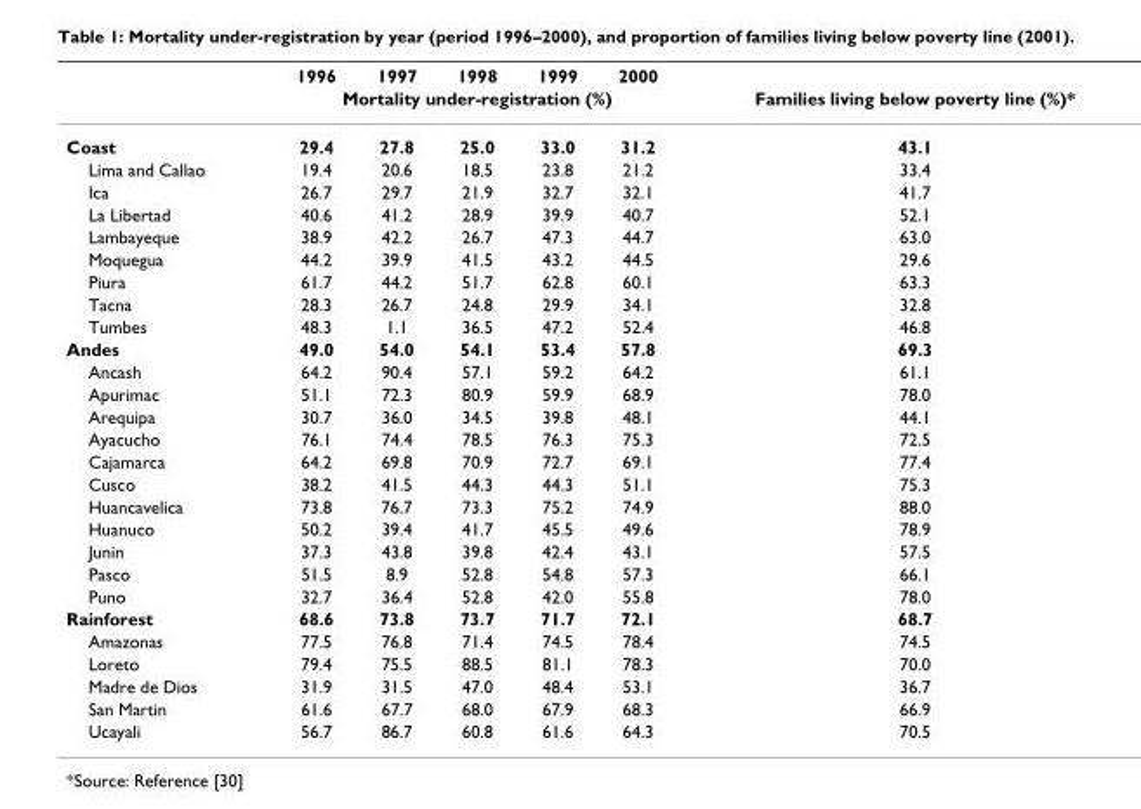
<table><thead><tr><td rowspan="2"></td><td>1996</td><td>1997</td><td>1998</td><td>1999</td><td>2000</td><td rowspan="2">Families living below poverty line (%)*</td></tr><tr><td colspan="5">Mortality under-registration (%)</td></tr></thead><tbody><tr><td>Coast</td><td>29.4</td><td>27.8</td><td>25.0</td><td>33.0</td><td>31.2</td><td>43.1</td></tr><tr><td>Lima and Callao</td><td>19.4</td><td>20.6</td><td>18.5</td><td>23.8</td><td>21.2</td><td>33.4</td></tr><tr><td>Ica</td><td>26.7</td><td>29.7</td><td>21.9</td><td>32.7</td><td>32.1</td><td>41.7</td></tr><tr><td>La Libertad</td><td>40.6</td><td>41.2</td><td>28.9</td><td>39.9</td><td>40.7</td><td>52.1</td></tr><tr><td>Lambayeque</td><td>38.9</td><td>42.2</td><td>26.7</td><td>47.3</td><td>44.7</td><td>63.0</td></tr><tr><td>Moquegua</td><td>44.2</td><td>39.9</td><td>41.5</td><td>43.2</td><td>44.5</td><td>29.6</td></tr><tr><td>Piura</td><td>61.7</td><td>44.2</td><td>51.7</td><td>62.8</td><td>60.1</td><td>63.3</td></tr><tr><td>Tacna</td><td>28.3</td><td>26.7</td><td>24.8</td><td>29.9</td><td>34.1</td><td>32.8</td></tr><tr><td>Tumbes</td><td>48.3</td><td>1.1</td><td>36.5</td><td>47.2</td><td>52.4</td><td>46.8</td></tr><tr><td>Andes</td><td>49.0</td><td>54.0</td><td>54.1</td><td>53.4</td><td>57.8</td><td>69.3</td></tr><tr><td>Ancash</td><td>64.2</td><td>90.4</td><td>57.1</td><td>59.2</td><td>64.2</td><td>61.1</td></tr><tr><td>Apurimac</td><td>51.1</td><td>72.3</td><td>80.9</td><td>59.9</td><td>68.9</td><td>78.0</td></tr><tr><td>Arequipa</td><td>30.7</td><td>36.0</td><td>34.5</td><td>39.8</td><td>48.1</td><td>44.1</td></tr><tr><td>Ayacucho</td><td>76.1</td><td>74.4</td><td>78.5</td><td>76.3</td><td>75.3</td><td>72.5</td></tr><tr><td>Cajamarca</td><td>64.2</td><td>69.8</td><td>70.9</td><td>72.7</td><td>69.1</td><td>77.4</td></tr><tr><td>Cusco</td><td>38.2</td><td>41.5</td><td>44.3</td><td>44.3</td><td>51.1</td><td>75.3</td></tr><tr><td>Huancavelica</td><td>73.8</td><td>76.7</td><td>73.3</td><td>75.2</td><td>74.9</td><td>88.0</td></tr><tr><td>Huanuco</td><td>50.2</td><td>39.4</td><td>41.7</td><td>45.5</td><td>49.6</td><td>78.9</td></tr><tr><td>Junin</td><td>37.3</td><td>43.8</td><td>39.8</td><td>42.4</td><td>43.1</td><td>57.5</td></tr><tr><td>Pasco</td><td>51.5</td><td>8.9</td><td>52.8</td><td>54.8</td><td>57.3</td><td>66.1</td></tr><tr><td>Puno</td><td>32.7</td><td>36.4</td><td>52.8</td><td>42.0</td><td>55.8</td><td>78.0</td></tr><tr><td>Rainforest</td><td>68.6</td><td>73.8</td><td>73.7</td><td>71.7</td><td>72.1</td><td>68.7</td></tr><tr><td>Amazonas</td><td>77.5</td><td>76.8</td><td>71.4</td><td>74.5</td><td>78.4</td><td>74.5</td></tr><tr><td>Loreto</td><td>79.4</td><td>75.5</td><td>88.5</td><td>81.1</td><td>78.3</td><td>70.0</td></tr><tr><td>Madre de Dios</td><td>31.9</td><td>31.5</td><td>47.0</td><td>48.4</td><td>53.1</td><td>36.7</td></tr><tr><td>San Martin</td><td>61.6</td><td>67.7</td><td>68.0</td><td>67.9</td><td>68.3</td><td>66.9</td></tr><tr><td>Ucayali</td><td>56.7</td><td>86.7</td><td>60.8</td><td>61.6</td><td>64.3</td><td>70.5</td></tr></tbody></table>